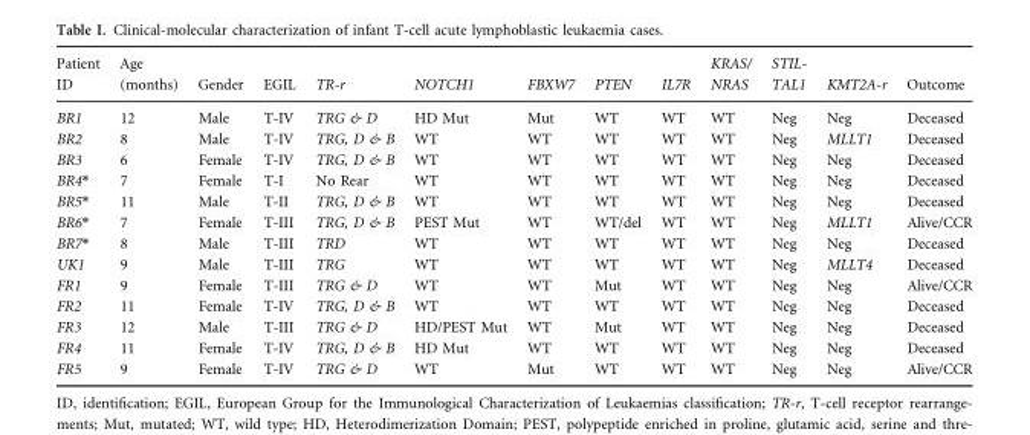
<table><thead><tr><td>Patient ID</td><td>Age (months)</td><td>Gender</td><td>EGIL</td><td>TR-r</td><td>NOTCH1</td><td>FBXW7</td><td>PTEN</td><td>IL7R</td><td>KRAS/ NRAS</td><td>STIL- TAL1</td><td>KMT2A-r</td><td>Outcome</td></tr></thead><tbody><tr><td>BR1</td><td>12</td><td>Male</td><td>T-IV</td><td>TRG &amp; D</td><td>HD Mut</td><td>Mut</td><td>WT</td><td>WT</td><td>WT</td><td>Neg</td><td>Neg</td><td>Deceased</td></tr><tr><td>BR2</td><td>8</td><td>Male</td><td>T-IV</td><td>TRG, D &amp; B</td><td>WT</td><td>WT</td><td>WT</td><td>WT</td><td>WT</td><td>Neg</td><td>MLLT1</td><td>Deceased</td></tr><tr><td>BR3</td><td>6</td><td>Female</td><td>T-IV</td><td>TRG, D &amp; B</td><td>WT</td><td>WT</td><td>WT</td><td>WT</td><td>WT</td><td>Neg</td><td>Neg</td><td>Deceased</td></tr><tr><td>BR4*</td><td>7</td><td>Female</td><td>T-I</td><td>No Rear</td><td>WT</td><td>WT</td><td>WT</td><td>WT</td><td>WT</td><td>Neg</td><td>Neg</td><td>Deceased</td></tr><tr><td>BR5*</td><td>11</td><td>Male</td><td>T-II</td><td>TRG, D &amp; B</td><td>WT</td><td>WT</td><td>WT</td><td>WT</td><td>WT</td><td>Neg</td><td>Neg</td><td>Deceased</td></tr><tr><td>BR6*</td><td>7</td><td>Female</td><td>T-III</td><td>TRG, D &amp; B</td><td>PEST Mut</td><td>WT</td><td>WT/del</td><td>WT</td><td>WT</td><td>Neg</td><td>MLLT1</td><td>Alive/CCR</td></tr><tr><td>BR7*</td><td>8</td><td>Male</td><td>T-III</td><td>TRD</td><td>WT</td><td>WT</td><td>WT</td><td>WT</td><td>WT</td><td>Neg</td><td>Neg</td><td>Deceased</td></tr><tr><td>UK1</td><td>9</td><td>Male</td><td>T-III</td><td>TRG</td><td>WT</td><td>WT</td><td>WT</td><td>WT</td><td>WT</td><td>Neg</td><td>MLLT4</td><td>Deceased</td></tr><tr><td>FR1</td><td>9</td><td>Female</td><td>T-III</td><td>TRG &amp; D</td><td>WT</td><td>WT</td><td>Mut</td><td>WT</td><td>WT</td><td>Neg</td><td>Neg</td><td>Alive/CCR</td></tr><tr><td>FR2</td><td>11</td><td>Female</td><td>T-IV</td><td>TRG, D &amp; B</td><td>WT</td><td>WT</td><td>WT</td><td>WT</td><td>WT</td><td>Neg</td><td>Neg</td><td>Deceased</td></tr><tr><td>FR3</td><td>12</td><td>Male</td><td>T-III</td><td>TRG &amp; D</td><td>HD/PEST Mut</td><td>WT</td><td>Mut</td><td>WT</td><td>WT</td><td>Neg</td><td>Neg</td><td>Deceased</td></tr><tr><td>FR4</td><td>11</td><td>Female</td><td>T-IV</td><td>TRG, D &amp; B</td><td>HD Mut</td><td>WT</td><td>WT</td><td>WT</td><td>WT</td><td>Neg</td><td>Neg</td><td>Deceased</td></tr><tr><td>FR5</td><td>9</td><td>Female</td><td>T-IV</td><td>TRG &amp; D</td><td>WT</td><td>Mut</td><td>WT</td><td>WT</td><td>WT</td><td>Neg</td><td>Neg</td><td>Alive/CCR</td></tr></tbody></table>